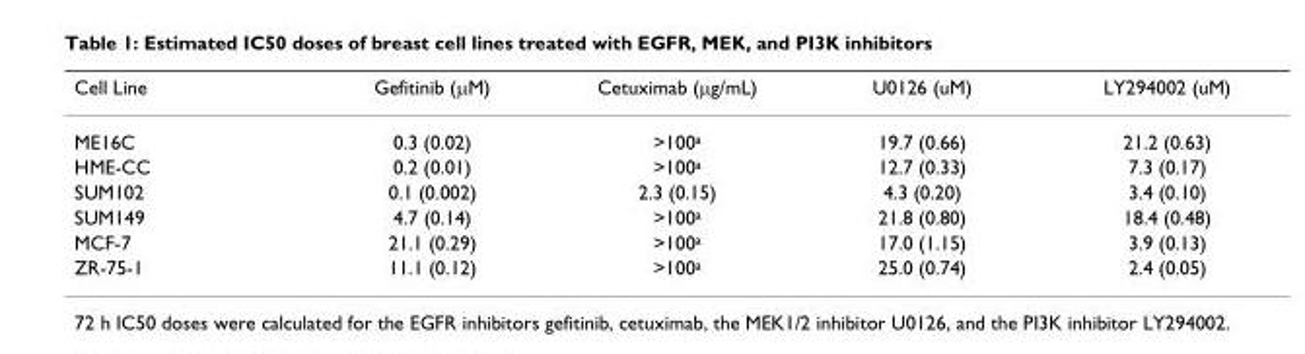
<table><thead><tr><td>Cell Line</td><td>Gefitinib (µM)</td><td>Cetuximab (µg/mL)</td><td>U0126 (uM)</td><td>LY294002 (uM)</td></tr></thead><tbody><tr><td>ME16C</td><td>0.3 (0.02)</td><td>&gt;100<sup>a</sup></td><td>19.7 (0.66)</td><td>21.2 (0.63)</td></tr><tr><td>HME-CC</td><td>0.2 (0.01)</td><td>&gt;100<sup>a</sup></td><td>12.7 (0.33)</td><td>7.3 (0.17)</td></tr><tr><td>SUM102</td><td>0.1 (0.002)</td><td>2.3 (0.15)</td><td>4.3 (0.20)</td><td>3.4 (0.10)</td></tr><tr><td>SUM149</td><td>4.7 (0.14)</td><td>&gt;100<sup>a</sup></td><td>21.8 (0.80)</td><td>18.4 (0.48)</td></tr><tr><td>MCF-7</td><td>21.1 (0.29)</td><td>&gt;100<sup>a</sup></td><td>17.0 (1.15)</td><td>3.9 (0.13)</td></tr><tr><td>ZR-75-1</td><td>11.1 (0.12)</td><td>&gt;100<sup>a</sup></td><td>25.0 (0.74)</td><td>2.4 (0.05)</td></tr></tbody></table>